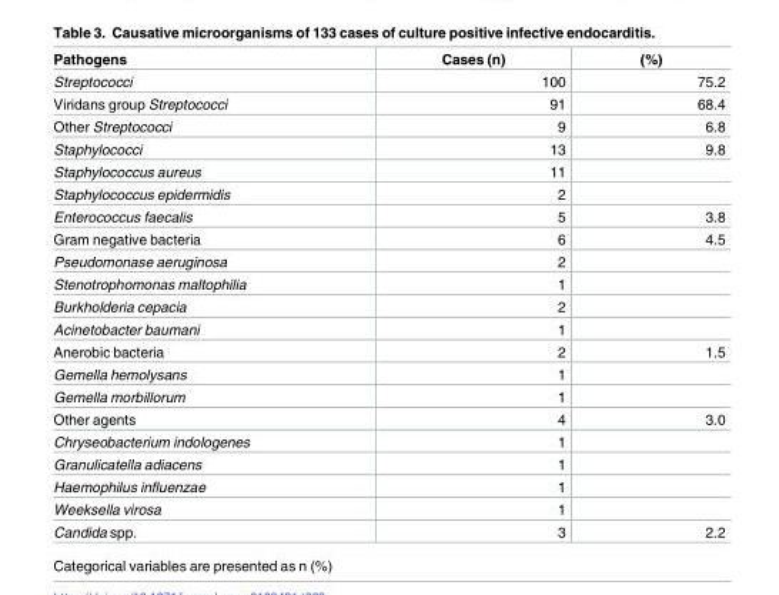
<table><thead><tr><td>Pathogens</td><td>Cases (n)</td><td>(%)</td></tr></thead><tbody><tr><td>Streptococci</td><td>100</td><td>75.2</td></tr><tr><td>Viridans group Streptococci</td><td>91</td><td>68.4</td></tr><tr><td>Other Streptococci</td><td>9</td><td>6.8</td></tr><tr><td>Staphylococci</td><td>13</td><td>9.8</td></tr><tr><td>Staphylococcus aureus</td><td>11</td><td></td></tr><tr><td>Staphylococcus epidermidis</td><td>2</td><td></td></tr><tr><td>Enterococcus faecalis</td><td>5</td><td>3.8</td></tr><tr><td>Gram negative bacteria</td><td>6</td><td>4.5</td></tr><tr><td>Pseudomonase aeruginosa</td><td>2</td><td></td></tr><tr><td>Stenotrophomonas maltophilia</td><td>1</td><td></td></tr><tr><td>Burkholderia cepacia</td><td>2</td><td></td></tr><tr><td>Acinetobacter baumani</td><td>1</td><td></td></tr><tr><td>Anerobic bacteria</td><td>2</td><td>1.5</td></tr><tr><td>Gemella hemolysans</td><td>1</td><td></td></tr><tr><td>Gemella morbillorum</td><td>1</td><td></td></tr><tr><td>Other agents</td><td>4</td><td>3.0</td></tr><tr><td>Chryseobacterium indologenes</td><td>1</td><td></td></tr><tr><td>Granulicatella adiacens</td><td>1</td><td></td></tr><tr><td>Haemophilus influenzae</td><td>1</td><td></td></tr><tr><td>Weeksella virosa</td><td>1</td><td></td></tr><tr><td>Candida spp.</td><td>3</td><td>2.2</td></tr></tbody></table>